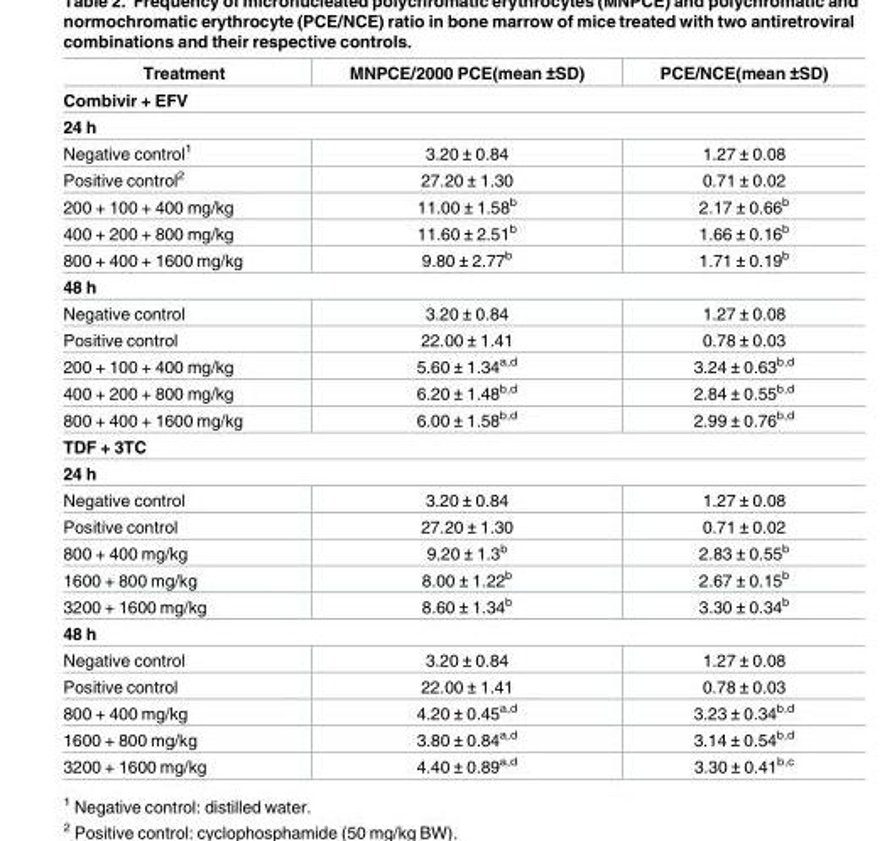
<table><thead><tr><td>Treatment</td><td>MNPCE/2000 PCE(mean ±SD)</td><td>PCE/NCE(mean ±SD)</td></tr></thead><tbody><tr><td colspan="3">Combivir + EFV</td></tr><tr><td colspan="3">24 h</td></tr><tr><td>Negative control<sup>1</sup></td><td>3.20 ± 0.84</td><td>1.27 ± 0.08</td></tr><tr><td>Positive control<sup>2</sup></td><td>27.20 ± 1.30</td><td>0.71 ± 0.02</td></tr><tr><td>200 + 100 + 400 mg/kg</td><td>11.00 ± 1.58<sup>b</sup></td><td>2.17 ± 0.66<sup>b</sup></td></tr><tr><td>400 + 200 + 800 mg/kg</td><td>11.60 ± 2.51<sup>b</sup></td><td>1.66 ± 0.16<sup>b</sup></td></tr><tr><td>800 + 400 + 1600 mg/kg</td><td>9.80 ± 2.77<sup>b</sup></td><td>1.71 ± 0.19<sup>b</sup></td></tr><tr><td colspan="3">48 h</td></tr><tr><td>Negative control</td><td>3.20 ± 0.84</td><td>1.27 ± 0.08</td></tr><tr><td>Positive control</td><td>22.00 ± 1.41</td><td>0.78 ± 0.03</td></tr><tr><td>200 + 100 + 400 mg/kg</td><td>5.60 ± 1.34<sup>a,d</sup></td><td>3.24 ± 0.63<sup>b,d</sup></td></tr><tr><td>400 + 200 + 800 mg/kg</td><td>6.20 ± 1.48<sup>b,d</sup></td><td>2.84 ± 0.55<sup>b,d</sup></td></tr><tr><td>800 + 400 + 1600 mg/kg</td><td>6.00 ± 1.58<sup>b,d</sup></td><td>2.99 ± 0.76<sup>b,d</sup></td></tr><tr><td colspan="3">TDF + 3TC</td></tr><tr><td colspan="3">24 h</td></tr><tr><td>Negative control</td><td>3.20 ± 0.84</td><td>1.27 ± 0.08</td></tr><tr><td>Positive control</td><td>27.20 ± 1.30</td><td>0.71 ± 0.02</td></tr><tr><td>800 + 400 mg/kg</td><td>9.20 ± 1.3<sup>b</sup></td><td>2.83 ± 0.55<sup>b</sup></td></tr><tr><td>1600 + 800 mg/kg</td><td>8.00 ± 1.22<sup>b</sup></td><td>2.67 ± 0.15<sup>b</sup></td></tr><tr><td>3200 + 1600 mg/kg</td><td>8.60 ± 1.34<sup>b</sup></td><td>3.30 ± 0.34<sup>b</sup></td></tr><tr><td colspan="3">48 h</td></tr><tr><td>Negative control</td><td>3.20 ± 0.84</td><td>1.27 ± 0.08</td></tr><tr><td>Positive control</td><td>22.00 ± 1.41</td><td>0.78 ± 0.03</td></tr><tr><td>800 + 400 mg/kg</td><td>4.20 ± 0.45<sup>a,d</sup></td><td>3.23 ± 0.34<sup>b,d</sup></td></tr><tr><td>1600 + 800 mg/kg</td><td>3.80 ± 0.84<sup>a,d</sup></td><td>3.14 ± 0.54<sup>b,d</sup></td></tr><tr><td>3200 + 1600 mg/kg</td><td>4.40 ± 0.89<sup>a,d</sup></td><td>3.30 ± 0.41<sup>b,c</sup></td></tr></tbody></table>